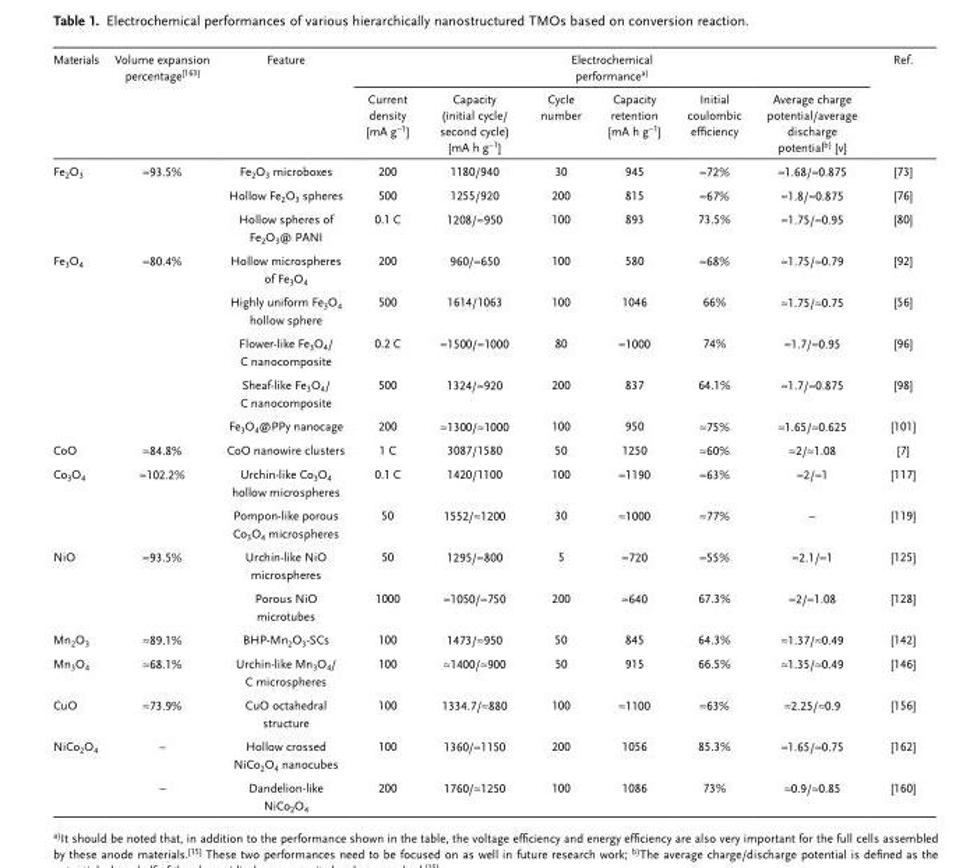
<table><thead><tr><td rowspan="2">Materials</td><td rowspan="2">Volume expansion percentage[163]</td><td rowspan="2">Feature</td><td colspan="6">Electrochemical performancea)</td><td rowspan="2">Ref.</td></tr><tr><td>Current density [mA g<sup>−1</sup>]</td><td>Capacity (initial cycle/ second cycle) [mA h g<sup>−1</sup>]</td><td>Cycle number</td><td>Capacity retention [mA h g<sup>−1</sup>]</td><td>Initial coulombic efficiency</td><td>Average charge potential/average discharge potentialb) [v]</td></tr></thead><tbody><tr><td rowspan="3">Fe<sub>2</sub>O<sub>3</sub></td><td>≈93.5%</td><td>Fe<sub>2</sub>O<sub>3</sub> microboxes</td><td>200</td><td>1180/940</td><td>30</td><td>945</td><td>≈72%</td><td>≈1.68/≈0.875</td><td>[73]</td></tr><tr><td></td><td>Hollow Fe<sub>2</sub>O<sub>3</sub> spheres</td><td>500</td><td>1255/920</td><td>200</td><td>815</td><td>≈67%</td><td>≈1.8/≈0.875</td><td>[76]</td></tr><tr><td></td><td>Hollow spheres of Fe<sub>2</sub>O<sub>3</sub>@ PANI</td><td>0.1 C</td><td>1208/≈950</td><td>100</td><td>893</td><td>73.5%</td><td>≈1.75/≈0.95</td><td>[80]</td></tr><tr><td rowspan="5">Fe<sub>3</sub>O<sub>4</sub></td><td>≈80.4%</td><td>Hollow microspheres of Fe<sub>3</sub>O<sub>4</sub></td><td>200</td><td>960/≈650</td><td>100</td><td>580</td><td>≈68%</td><td>≈1.75/≈0.79</td><td>[92]</td></tr><tr><td></td><td>Highly uniform Fe<sub>3</sub>O<sub>4</sub> hollow sphere</td><td>500</td><td>1614/1063</td><td>100</td><td>1046</td><td>66%</td><td>≈1.75/≈0.75</td><td>[56]</td></tr><tr><td></td><td>Flower-like Fe<sub>3</sub>O<sub>4</sub>/ C nanocomposite</td><td>0.2 C</td><td>≈1500/≈1000</td><td>80</td><td>≈1000</td><td>74%</td><td>≈1.7/≈0.95</td><td>[96]</td></tr><tr><td></td><td>Sheaf-like Fe<sub>3</sub>O<sub>4</sub>/ C nanocomposite</td><td>500</td><td>1324/≈920</td><td>200</td><td>837</td><td>64.1%</td><td>≈1.7/≈0.875</td><td>[98]</td></tr><tr><td></td><td>Fe<sub>3</sub>O<sub>4</sub>@PPy nanocage</td><td>200</td><td>≈1300/≈1000</td><td>100</td><td>950</td><td>≈75%</td><td>≈1.65/≈0.625</td><td>[101]</td></tr><tr><td>CoO</td><td>≈84.8%</td><td>CoO nanowire clusters</td><td>1 C</td><td>3087/1580</td><td>50</td><td>1250</td><td>≈60%</td><td>≈2/≈1.08</td><td>[7]</td></tr><tr><td rowspan="2">Co<sub>3</sub>O<sub>4</sub></td><td>≈102.2%</td><td>Urchin-like Co<sub>3</sub>O<sub>4</sub> hollow microspheres</td><td>0.1 C</td><td>1420/1100</td><td>100</td><td>≈1190</td><td>≈63%</td><td>≈2/≈1</td><td>[117]</td></tr><tr><td></td><td>Pompon-like porous Co<sub>3</sub>O<sub>4</sub> microspheres</td><td>50</td><td>1552/≈1200</td><td>30</td><td>≈1000</td><td>≈77%</td><td>–</td><td>[119]</td></tr><tr><td rowspan="2">NiO</td><td>≈93.5%</td><td>Urchin-like NiO microspheres</td><td>50</td><td>1295/≈800</td><td>5</td><td>≈720</td><td>≈55%</td><td>≈2.1/≈1</td><td>[125]</td></tr><tr><td></td><td>Porous NiO microtubes</td><td>1000</td><td>≈1050/≈750</td><td>200</td><td>≈640</td><td>67.3%</td><td>≈2/≈1.08</td><td>[128]</td></tr><tr><td>Mn<sub>2</sub>O<sub>3</sub></td><td>≈89.1%</td><td>BHP-Mn<sub>2</sub>O<sub>3</sub>-SCs</td><td>100</td><td>1473/≈950</td><td>50</td><td>845</td><td>64.3%</td><td>≈1.37/≈0.49</td><td>[142]</td></tr><tr><td>Mn<sub>3</sub>O<sub>4</sub></td><td>≈68.1%</td><td>Urchin-like Mn<sub>3</sub>O<sub>4</sub>/ C microspheres</td><td>100</td><td>≈1400/≈900</td><td>50</td><td>915</td><td>66.5%</td><td>≈1.35/≈0.49</td><td>[146]</td></tr><tr><td>CuO</td><td>≈73.9%</td><td>CuO octahedral structure</td><td>100</td><td>1334.7/≈880</td><td>100</td><td>≈1100</td><td>≈63%</td><td>≈2.25/≈0.9</td><td>[156]</td></tr><tr><td rowspan="2">NiCo<sub>2</sub>O<sub>4</sub></td><td>–</td><td>Hollow crossed NiCo<sub>2</sub>O<sub>4</sub> nanocubes</td><td>100</td><td>1360/≈1150</td><td>200</td><td>1056</td><td>85.3%</td><td>≈1.65/≈0.75</td><td>[162]</td></tr><tr><td>–</td><td>Dandelion-like NiCo<sub>2</sub>O<sub>4</sub></td><td>200</td><td>1760/≈1250</td><td>100</td><td>1086</td><td>73%</td><td>≈0.9/≈0.85</td><td>[160]</td></tr></tbody></table>